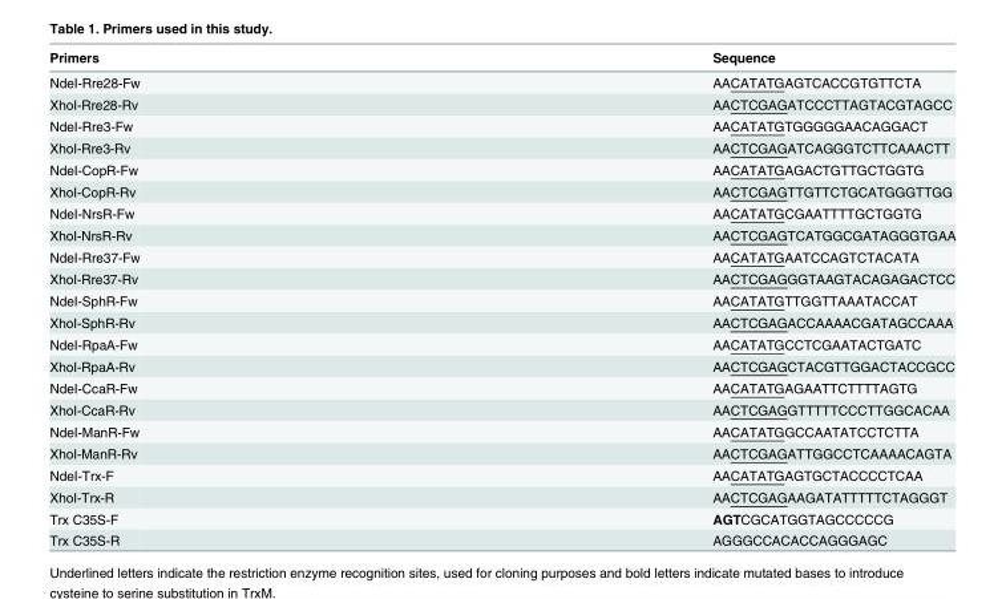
<table><thead><tr><td>Primers</td><td>Sequence</td></tr></thead><tbody><tr><td>NdeI-Rre28-Fw</td><td>AACATATGAGTCACCGTGTTCTA</td></tr><tr><td>XhoI-Rre28-Rv</td><td>AACTCGAGATCCCTTAGTACGTAGCC</td></tr><tr><td>NdeI-Rre3-Fw</td><td>AACATATGTGGGGGAACAGGACT</td></tr><tr><td>XhoI-Rre3-Rv</td><td>AACTCGAGATCAGGGTCTTCAAACTT</td></tr><tr><td>NdeI-CopR-Fw</td><td>AACATATGAGACTGTTGCTGGTG</td></tr><tr><td>XhoI-CopR-Rv</td><td>AACTCGAGTTGTTCTGCATGGGTTGG</td></tr><tr><td>NdeI-NrsR-Fw</td><td>AACATATGCGAATTTTGCTGGTG</td></tr><tr><td>XhoI-NrsR-Rv</td><td>AACTCGAGTCATGGCGATAGGGTGAA</td></tr><tr><td>NdeI-Rre37-Fw</td><td>AACATATGAATCCAGTCTACATA</td></tr><tr><td>XhoI-Rre37-Rv</td><td>AACTCGAGGGTAAGTACAGAGACTCC</td></tr><tr><td>NdeI-SphR-Fw</td><td>AACATATGTTGGTTAAATACCAT</td></tr><tr><td>XhoI-SphR-Rv</td><td>AACTCGAGACCAAAACGATAGCCAAA</td></tr><tr><td>NdeI-RpaA-Fw</td><td>AACATATGCCTCGAATACTGATC</td></tr><tr><td>XhoI-RpaA-Rv</td><td>AACTCGAGCTACGTTGGACTACCGCC</td></tr><tr><td>NdeI-CcaR-Fw</td><td>AACATATGAGAATTCTTTTAGTG</td></tr><tr><td>XhoI-CcaR-Rv</td><td>AACTCGAGGTTTTTCCCTTGGCACAA</td></tr><tr><td>NdeI-ManR-Fw</td><td>AACATATGGCCAATATCCTCTTA</td></tr><tr><td>XhoI-ManR-Rv</td><td>AACTCGAGATTGGCCTCAAAACAGTA</td></tr><tr><td>NdeI-Trx-F</td><td>AACATATGAGTGCTACCCCTCAA</td></tr><tr><td>XhoI-Trx-R</td><td>AACTCGAGAAGATATTTTTCTAGGGT</td></tr><tr><td>Trx C35S-F</td><td>AGTCGCATGGTAGCCCCCG</td></tr><tr><td>Trx C35S-R</td><td>AGGGCCACACCAGGGAGC</td></tr></tbody></table>